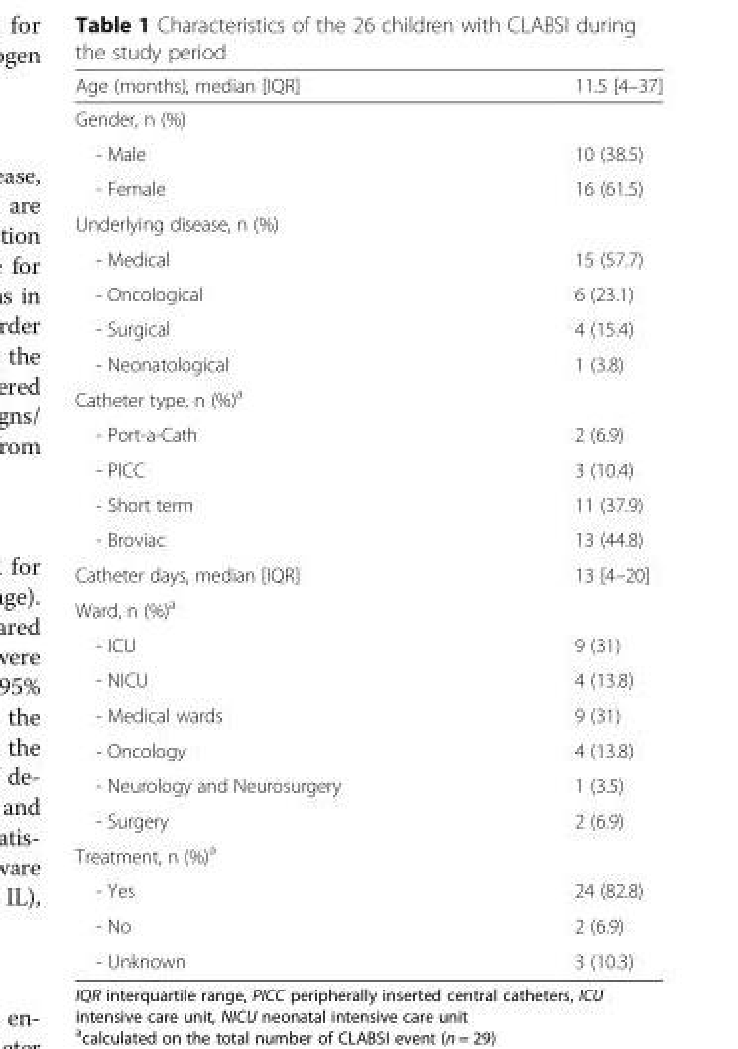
<table><thead><tr><td>Age (months), median [IQR]</td><td>11.5 [4–37]</td></tr></thead><tbody><tr><td colspan="2">Gender, n (%)</td></tr><tr><td>- Male</td><td>10 (38.5)</td></tr><tr><td>- Female</td><td>16 (61.5)</td></tr><tr><td colspan="2">Underlying disease, n (%)</td></tr><tr><td>- Medical</td><td>15 (57.7)</td></tr><tr><td>- Oncological</td><td>6 (23.1)</td></tr><tr><td>- Surgical</td><td>4 (15.4)</td></tr><tr><td>- Neonatological</td><td>1 (3.8)</td></tr><tr><td colspan="2">Catheter type, n (%)<sup>a</sup></td></tr><tr><td>- Port-a-Cath</td><td>2 (6.9)</td></tr><tr><td>- PICC</td><td>3 (10.4)</td></tr><tr><td>- Short term</td><td>11 (37.9)</td></tr><tr><td>- Broviac</td><td>13 (44.8)</td></tr><tr><td>Catheter days, median [IQR]</td><td>13 [4–20]</td></tr><tr><td colspan="2">Ward, n (%)<sup>a</sup></td></tr><tr><td>- ICU</td><td>9 (31)</td></tr><tr><td>- NICU</td><td>4 (13.8)</td></tr><tr><td>- Medical wards</td><td>9 (31)</td></tr><tr><td>- Oncology</td><td>4 (13.8)</td></tr><tr><td>- Neurology and Neurosurgery</td><td>1 (3.5)</td></tr><tr><td>- Surgery</td><td>2 (6.9)</td></tr><tr><td colspan="2">Treatment, n (%)<sup>a</sup></td></tr><tr><td>- Yes</td><td>24 (82.8)</td></tr><tr><td>- No</td><td>2 (6.9)</td></tr><tr><td>- Unknown</td><td>3 (10.3)</td></tr></tbody></table>